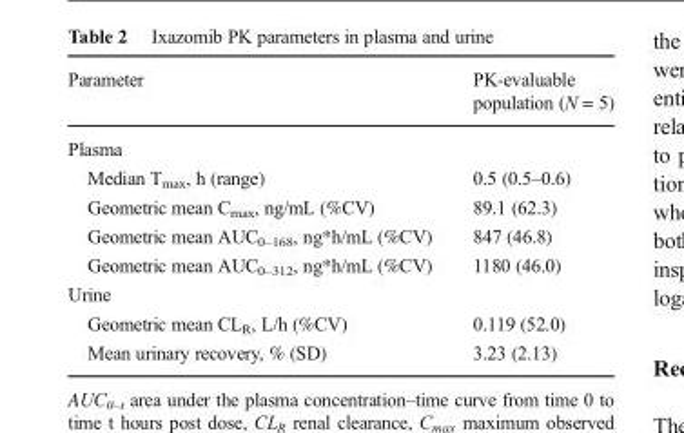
<table><thead><tr><td>Parameter</td><td>PK-evaluable population (N = 5)</td></tr></thead><tbody><tr><td colspan="2">Plasma</td></tr><tr><td>Median T<sub>max</sub>, h (range)</td><td>0.5 (0.5–0.6)</td></tr><tr><td>Geometric mean C<sub>max</sub>, ng/mL (%CV)</td><td>89.1 (62.3)</td></tr><tr><td>Geometric mean AUC<sub>0–168</sub>, ng*h/mL (%CV)</td><td>847 (46.8)</td></tr><tr><td>Geometric mean AUC<sub>0–312</sub>, ng*h/mL (%CV)</td><td>1180 (46.0)</td></tr><tr><td colspan="2">Urine</td></tr><tr><td>Geometric mean CL<sub>R</sub>, L/h (%CV)</td><td>0.119 (52.0)</td></tr><tr><td>Mean urinary recovery, % (SD)</td><td>3.23 (2.13)</td></tr></tbody></table>